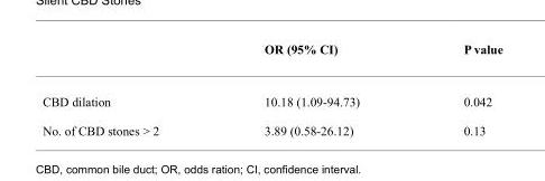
<table><thead><tr><td></td><td>OR (95% CI)</td><td>P value</td></tr></thead><tbody><tr><td>CBD dilation</td><td>10.18 (1.09-94.73)</td><td>0.042</td></tr><tr><td>No. of CBD stones &gt; 2</td><td>3.89 (0.58-26.12)</td><td>0.13</td></tr></tbody></table>